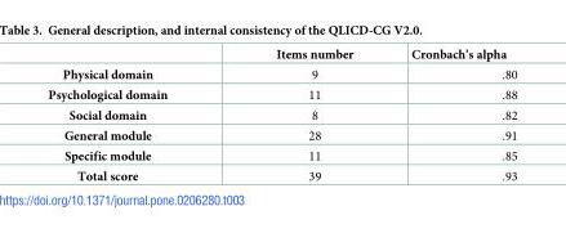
<table><thead><tr><td></td><td>Items number</td><td>Cronbach’s alpha</td></tr></thead><tbody><tr><td>Physical domain</td><td>9</td><td>.80</td></tr><tr><td>Psychological domain</td><td>11</td><td>.88</td></tr><tr><td>Social domain</td><td>8</td><td>.82</td></tr><tr><td>General module</td><td>28</td><td>.91</td></tr><tr><td>Specific module</td><td>11</td><td>.85</td></tr><tr><td>Total score</td><td>39</td><td>.93</td></tr></tbody></table>